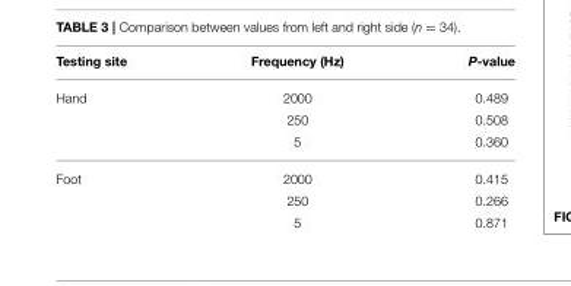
<table><thead><tr><td>Testing site</td><td>Frequency (Hz)</td><td>P-value</td></tr></thead><tbody><tr><td rowspan="3">Hand</td><td>2000</td><td>0.489</td></tr><tr><td>250</td><td>0.508</td></tr><tr><td>5</td><td>0.360</td></tr><tr><td rowspan="3">Foot</td><td>2000</td><td>0.415</td></tr><tr><td>250</td><td>0.266</td></tr><tr><td>5</td><td>0.871</td></tr></tbody></table>